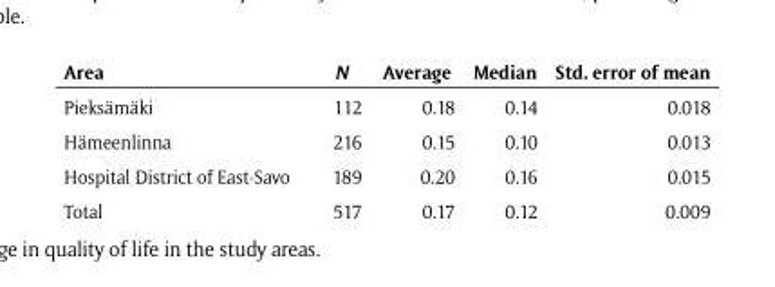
<table><thead><tr><td>Area</td><td>N</td><td>Average</td><td>Median</td><td>Std. error of mean</td></tr></thead><tbody><tr><td>Pieksämäki</td><td>112</td><td>0.18</td><td>0.14</td><td>0.018</td></tr><tr><td>Hämeenlinna</td><td>216</td><td>0.15</td><td>0.10</td><td>0.013</td></tr><tr><td>Hospital District of East-Savo</td><td>189</td><td>0.20</td><td>0.16</td><td>0.015</td></tr><tr><td>Total</td><td>517</td><td>0.17</td><td>0.12</td><td>0.009</td></tr></tbody></table>